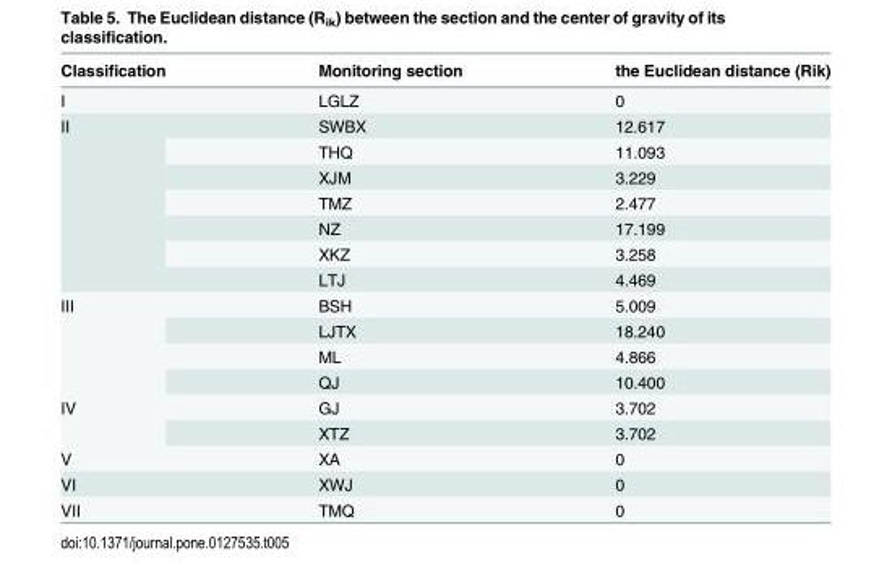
<table><thead><tr><td>Classification</td><td>Monitoring section</td><td>the Euclidean distance (Rik)</td></tr></thead><tbody><tr><td>I</td><td>LGLZ</td><td>0</td></tr><tr><td rowspan="7">II</td><td>SWBX</td><td>12.617</td></tr><tr><td>THQ</td><td>11.093</td></tr><tr><td>XJM</td><td>3.229</td></tr><tr><td>TMZ</td><td>2.477</td></tr><tr><td>NZ</td><td>17.199</td></tr><tr><td>XKZ</td><td>3.258</td></tr><tr><td>LTJ</td><td>4.469</td></tr><tr><td rowspan="4">III</td><td>BSH</td><td>5.009</td></tr><tr><td>LJTX</td><td>18.240</td></tr><tr><td>ML</td><td>4.866</td></tr><tr><td>QJ</td><td>10.400</td></tr><tr><td rowspan="2">IV</td><td>GJ</td><td>3.702</td></tr><tr><td>XTZ</td><td>3.702</td></tr><tr><td>V</td><td>XA</td><td>0</td></tr><tr><td>VI</td><td>XWJ</td><td>0</td></tr><tr><td>VII</td><td>TMQ</td><td>0</td></tr></tbody></table>